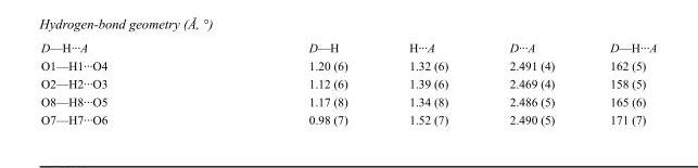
<table><tbody><tr><td>D—H···A</td><td>D—H</td><td>H···A</td><td>D···A</td><td>D—H···A</td></tr><tr><td>O1—H1···O4</td><td>1.20 (6)</td><td>1.32 (6)</td><td>2.491 (4)</td><td>162 (5)</td></tr><tr><td>O2—H2···O3</td><td>1.12 (6)</td><td>1.39 (6)</td><td>2.469 (4)</td><td>158 (5)</td></tr><tr><td>O8—H8···O5</td><td>1.17 (8)</td><td>1.34 (8)</td><td>2.486 (5)</td><td>165 (6)</td></tr><tr><td>O7—H7···O6</td><td>0.98 (7)</td><td>1.52 (7)</td><td>2.490 (5)</td><td>171 (7)</td></tr></tbody></table>